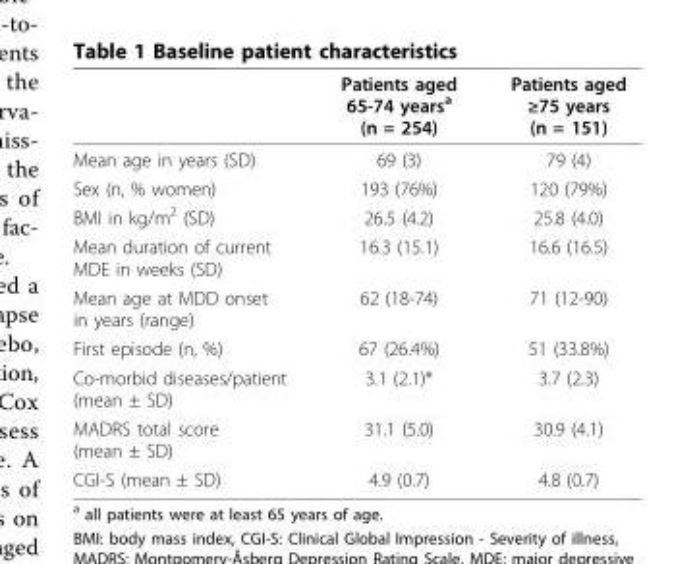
<table><thead><tr><td></td><td>Patients aged 65-74 years<sup>a</sup> (n = 254)</td><td>Patients aged ≥75 years (n = 151)</td></tr></thead><tbody><tr><td>Mean age in years (SD)</td><td>69 (3)</td><td>79 (4)</td></tr><tr><td>Sex (n, % women)</td><td>193 (76%)</td><td>120 (79%)</td></tr><tr><td>BMI in kg/m<sup>2</sup> (SD)</td><td>26.5 (4.2)</td><td>25.8 (4.0)</td></tr><tr><td>Mean duration of current MDE in weeks (SD)</td><td>16.3 (15.1)</td><td>16.6 (16.5)</td></tr><tr><td>Mean age at MDD onset in years (range)</td><td>62 (18-74)</td><td>71 (12-90)</td></tr><tr><td>First episode (n, %)</td><td>67 (26.4%)</td><td>51 (33.8%)</td></tr><tr><td>Co-morbid diseases/patient (mean ± SD)</td><td>3.1 (2.1)*</td><td>3.7 (2.3)</td></tr><tr><td>MADRS total score (mean ± SD)</td><td>31.1 (5.0)</td><td>30.9 (4.1)</td></tr><tr><td>CGI-S (mean ± SD)</td><td>4.9 (0.7)</td><td>4.8 (0.7)</td></tr></tbody></table>